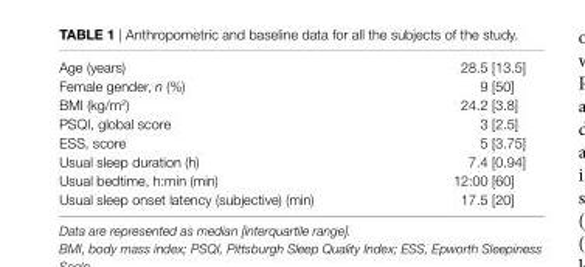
<table><tbody><tr><td>Age (years)</td><td>28.5 [13.5]</td></tr><tr><td>Female gender, n (%)</td><td>9 [50]</td></tr><tr><td>BMI (kg/m<sup>2</sup>)</td><td>24.2 [3.8]</td></tr><tr><td>PSQI, global score</td><td>3 [2.5]</td></tr><tr><td>ESS, score</td><td>5 [3.75]</td></tr><tr><td>Usual sleep duration (h)</td><td>7.4 [0.94]</td></tr><tr><td>Usual bedtime, h:min (min)</td><td>12:00 [60]</td></tr><tr><td>Usual sleep onset latency (subjective) (min)</td><td>17.5 [20]</td></tr></tbody></table>